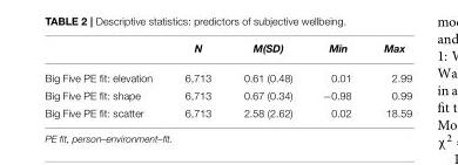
<table><thead><tr><td></td><td>N</td><td>M(SD)</td><td>Min</td><td>Max</td></tr></thead><tbody><tr><td>Big Five PE fit: elevation</td><td>6,713</td><td>0.61 (0.48)</td><td>0.01</td><td>2.99</td></tr><tr><td>Big Five PE fit: shape</td><td>6,713</td><td>0.67 (0.34)</td><td>−0.98</td><td>0.99</td></tr><tr><td>Big Five PE fit: scatter</td><td>6,713</td><td>2.58 (2.62)</td><td>0.02</td><td>18.59</td></tr></tbody></table>